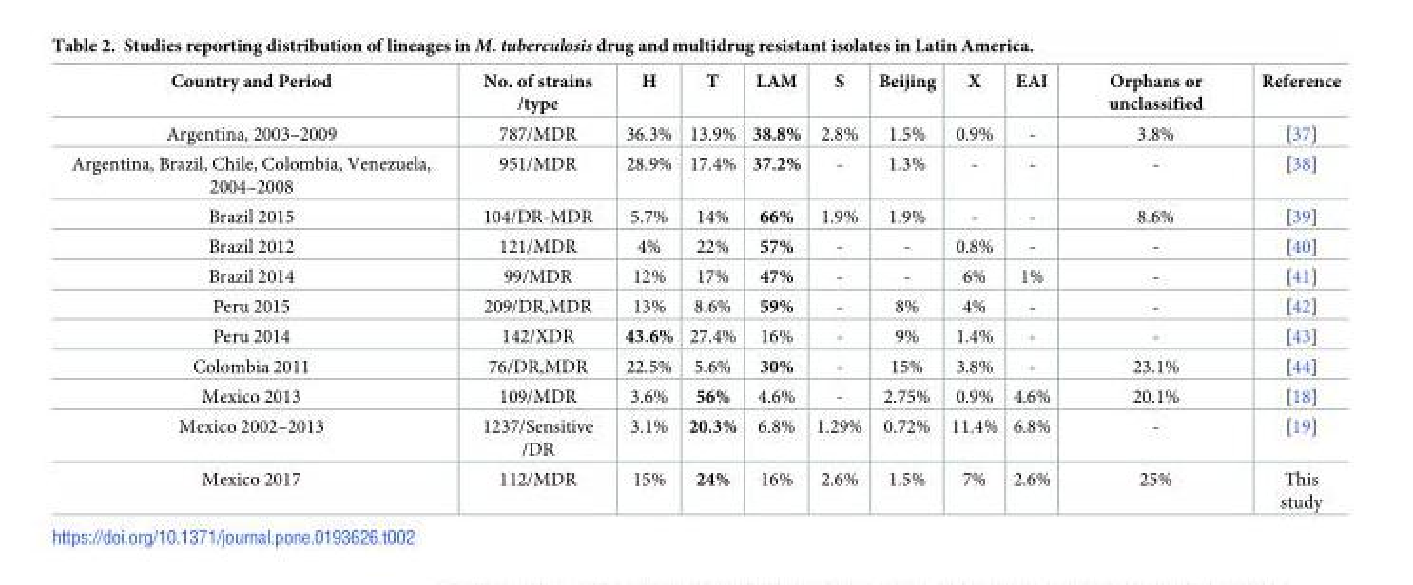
<table><thead><tr><td>Country and Period</td><td>No. of strains /type</td><td>H</td><td>T</td><td>LAM</td><td>S</td><td>Beijing</td><td>X</td><td>EAI</td><td>Orphans or unclassified</td><td>Reference</td></tr></thead><tbody><tr><td>Argentina, 2003–2009</td><td>787/MDR</td><td>36.3%</td><td>13.9%</td><td>38.8%</td><td>2.8%</td><td>1.5%</td><td>0.9%</td><td>-</td><td>3.8%</td><td>[37]</td></tr><tr><td>Argentina, Brazil, Chile, Colombia, Venezuela, 2004–2008</td><td>951/MDR</td><td>28.9%</td><td>17.4%</td><td>37.2%</td><td>-</td><td>1.3%</td><td>-</td><td>-</td><td>-</td><td>[38]</td></tr><tr><td>Brazil 2015</td><td>104/DR-MDR</td><td>5.7%</td><td>14%</td><td>66%</td><td>1.9%</td><td>1.9%</td><td>-</td><td>-</td><td>8.6%</td><td>[39]</td></tr><tr><td>Brazil 2012</td><td>121/MDR</td><td>4%</td><td>22%</td><td>57%</td><td>-</td><td>-</td><td>0.8%</td><td>-</td><td>-</td><td>[40]</td></tr><tr><td>Brazil 2014</td><td>99/MDR</td><td>12%</td><td>17%</td><td>47%</td><td>-</td><td>-</td><td>6%</td><td>1%</td><td>-</td><td>[41]</td></tr><tr><td>Peru 2015</td><td>209/DR,MDR</td><td>13%</td><td>8.6%</td><td>59%</td><td>-</td><td>8%</td><td>4%</td><td>-</td><td>-</td><td>[42]</td></tr><tr><td>Peru 2014</td><td>142/XDR</td><td>43.6%</td><td>27.4%</td><td>16%</td><td>-</td><td>9%</td><td>1.4%</td><td>-</td><td>-</td><td>[43]</td></tr><tr><td>Colombia 2011</td><td>76/DR,MDR</td><td>22.5%</td><td>5.6%</td><td>30%</td><td>-</td><td>15%</td><td>3.8%</td><td>-</td><td>23.1%</td><td>[44]</td></tr><tr><td>Mexico 2013</td><td>109/MDR</td><td>3.6%</td><td>56%</td><td>4.6%</td><td>-</td><td>2.75%</td><td>0.9%</td><td>4.6%</td><td>20.1%</td><td>[18]</td></tr><tr><td>Mexico 2002–2013</td><td>1237/Sensitive /DR</td><td>3.1%</td><td>20.3%</td><td>6.8%</td><td>1.29%</td><td>0.72%</td><td>11.4%</td><td>6.8%</td><td>-</td><td>[19]</td></tr><tr><td>Mexico 2017</td><td>112/MDR</td><td>15%</td><td>24%</td><td>16%</td><td>2.6%</td><td>1.5%</td><td>7%</td><td>2.6%</td><td>25%</td><td>This study</td></tr></tbody></table>